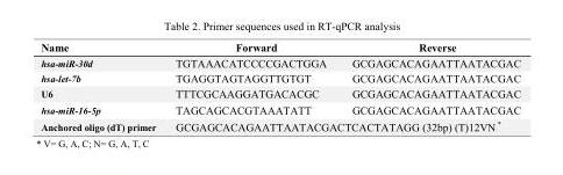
<table><thead><tr><td>Name</td><td>Forward</td><td>Reverse</td></tr></thead><tbody><tr><td>hsa-miR-30d</td><td>TGTAAACATCCCCGACTGGA</td><td>GCGAGCACAGAATTAATACGAC</td></tr><tr><td>hsa-let-7b</td><td>TGAGGTAGTAGGTTGTGT</td><td>GCGAGCACAGAATTAATACGAC</td></tr><tr><td>U6</td><td>TTTCGCAAGGATGACACGC</td><td>GCGAGCACAGAATTAATACGAC</td></tr><tr><td>hsa-miR-16-5p</td><td>TAGCAGCACGTAAATATT</td><td>GCGAGCACAGAATTAATACGAC</td></tr><tr><td>Anchored oligo (dT) primer</td><td colspan="2">GCGAGCACAGAATTAATACGACTCACTATAGG (32bp) (T)12VN *</td></tr></tbody></table>